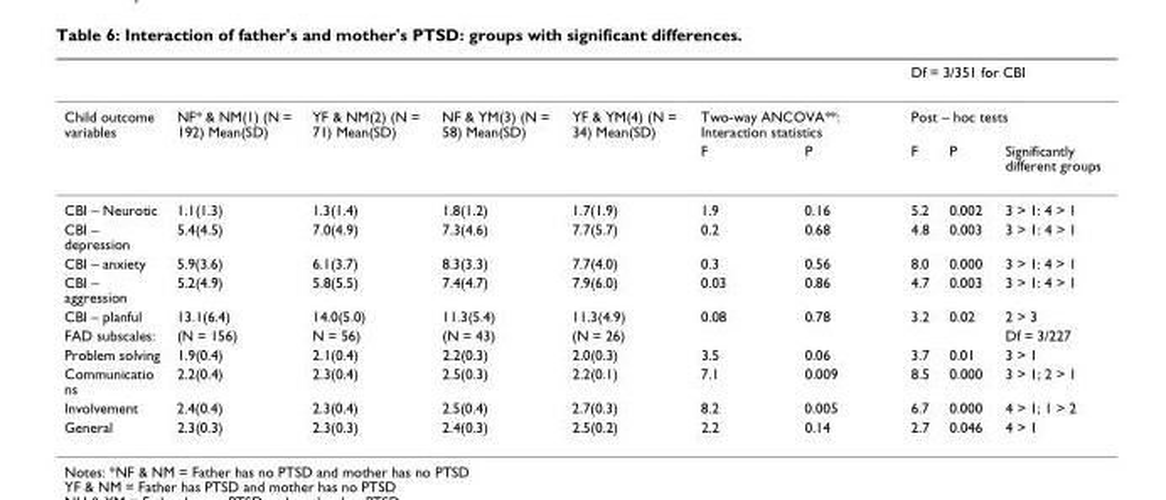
<table><thead><tr><td rowspan="3">Child outcome variables</td><td rowspan="3">NF* &amp; NM(1) (N = 192) Mean(SD)</td><td rowspan="3">YF &amp; NM(2) (N = 71) Mean(SD)</td><td rowspan="3">NF &amp; YM(3) (N = 58) Mean(SD)</td><td rowspan="3">YF &amp; YM(4) (N = 34) Mean(SD)</td><td></td><td></td><td rowspan="2" colspan="3">Df = 3/351 for CBI Post – hoc tests</td></tr><tr><td colspan="2">Two-way ANCOVA**: Interaction statistics</td></tr><tr><td>F</td><td>P</td><td>F</td><td>P</td><td>Significantly different groups</td></tr></thead><tbody><tr><td>CBI – Neurotic</td><td>1.1(1.3)</td><td>1.3(1.4)</td><td>1.8(1.2)</td><td>1.7(1.9)</td><td>1.9</td><td>0.16</td><td>5.2</td><td>0.002</td><td>3 &gt; 1: 4 &gt; 1</td></tr><tr><td>CBI – depression</td><td>5.4(4.5)</td><td>7.0(4.9)</td><td>7.3(4.6)</td><td>7.7(5.7)</td><td>0.2</td><td>0.68</td><td>4.8</td><td>0.003</td><td>3 &gt; 1: 4 &gt; 1</td></tr><tr><td>CBI – anxiety</td><td>5.9(3.6)</td><td>6.1(3.7)</td><td>8.3(3.3)</td><td>7.7(4.0)</td><td>0.3</td><td>0.56</td><td>8.0</td><td>0.000</td><td>3 &gt; 1: 4 &gt; 1</td></tr><tr><td>CBI – aggression</td><td>5.2(4.9)</td><td>5.8(5.5)</td><td>7.4(4.7)</td><td>7.9(6.0)</td><td>0.03</td><td>0.86</td><td>4.7</td><td>0.003</td><td>3 &gt; 1: 4 &gt; 1</td></tr><tr><td>CBI – planful</td><td>13.1(6.4)</td><td>14.0(5.0)</td><td>11.3(5.4)</td><td>11.3(4.9)</td><td>0.08</td><td>0.78</td><td>3.2</td><td>0.02</td><td>2 &gt; 3</td></tr><tr><td>FAD subscales:</td><td>(N = 156)</td><td>N = 56)</td><td>(N = 43)</td><td>(N = 26)</td><td></td><td></td><td></td><td></td><td>Df = 3/227</td></tr><tr><td>Problem solving</td><td>1.9(0.4)</td><td>2.1(0.4)</td><td>2.2(0.3)</td><td>2.0(0.3)</td><td>3.5</td><td>0.06</td><td>3.7</td><td>0.01</td><td>3 &gt; 1</td></tr><tr><td>Communicatio ns</td><td>2.2(0.4)</td><td>2.3(0.4)</td><td>2.5(0.3)</td><td>2.2(0.1)</td><td>7.1</td><td>0.009</td><td>8.5</td><td>0.000</td><td>3 &gt; 1; 2 &gt; 1</td></tr><tr><td>Involvement</td><td>2.4(0.4)</td><td>2.3(0.4)</td><td>2.5(0.4)</td><td>2.7(0.3)</td><td>8.2</td><td>0.005</td><td>6.7</td><td>0.000</td><td>4 &gt; 1; 1 &gt; 2</td></tr><tr><td>General</td><td>2.3(0.3)</td><td>2.3(0.3)</td><td>2.4(0.3)</td><td>2.5(0.2)</td><td>2.2</td><td>0.14</td><td>2.7</td><td>0.046</td><td>4 &gt; 1</td></tr></tbody></table>